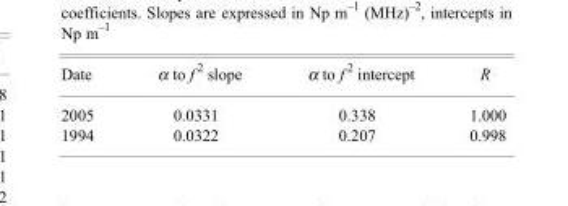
<table><thead><tr><td>Date</td><td>α to f <sup>2</sup> slope</td><td>α to f <sup>2</sup> intercept</td><td>R</td></tr></thead><tbody><tr><td>2005</td><td>0.0331</td><td>0.338</td><td>1.000</td></tr><tr><td>1994</td><td>0.0322</td><td>0.207</td><td>0.998</td></tr></tbody></table>